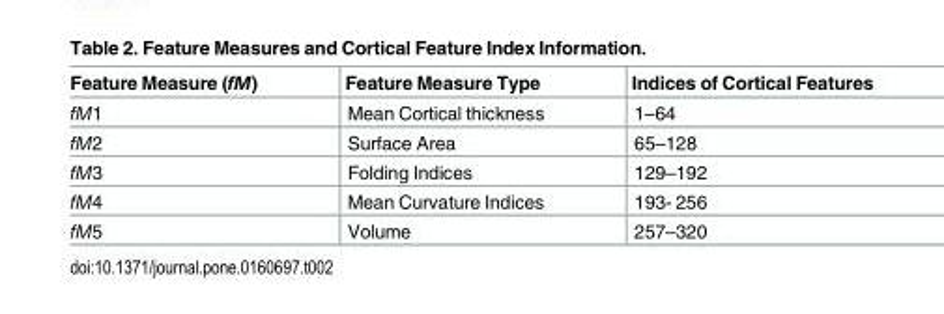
<table><thead><tr><td>Feature Measure (fM)</td><td>Feature Measure Type</td><td>Indices of Cortical Features</td></tr></thead><tbody><tr><td>fM1</td><td>Mean Cortical thickness</td><td>1–64</td></tr><tr><td>fM2</td><td>Surface Area</td><td>65–128</td></tr><tr><td>fM3</td><td>Folding Indices</td><td>129–192</td></tr><tr><td>fM4</td><td>Mean Curvature Indices</td><td>193- 256</td></tr><tr><td>fM5</td><td>Volume</td><td>257–320</td></tr></tbody></table>